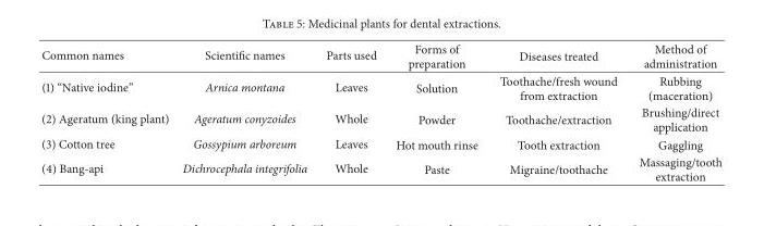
<table><thead><tr><td>Common names</td><td>Scientific names</td><td>Parts used</td><td>Forms of preparation</td><td>Diseases treated</td><td>Method of administration</td></tr></thead><tbody><tr><td>(1) “Native iodine”</td><td>Arnica montana</td><td>Leaves</td><td>Solution</td><td>Toothache/fresh wound from extraction</td><td>Rubbing (maceration)</td></tr><tr><td>(2) Ageratum (king plant)</td><td>Ageratum conyzoides</td><td>Whole</td><td>Powder</td><td>Toothache/extraction</td><td>Brushing/direct application</td></tr><tr><td>(3) Cotton tree</td><td>Gossypium arboreum</td><td>Leaves</td><td>Hot mouth rinse</td><td>Tooth extraction</td><td>Gaggling</td></tr><tr><td>(4) Bang-api</td><td>Dichrocephala integrifolia</td><td>Whole</td><td>Paste</td><td>Migraine/toothache</td><td>Massaging/tooth extraction</td></tr></tbody></table>